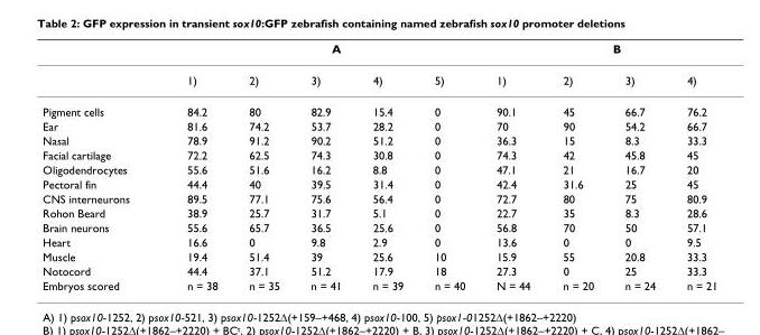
<table><thead><tr><td rowspan="2"></td><td colspan="5">A</td><td colspan="4">B</td></tr><tr><td>1)</td><td>2)</td><td>3)</td><td>4)</td><td>5)</td><td>1)</td><td>2)</td><td>3)</td><td>4)</td></tr></thead><tbody><tr><td>Pigment cells</td><td>84.2</td><td>80</td><td>82.9</td><td>15.4</td><td>0</td><td>90.1</td><td>45</td><td>66.7</td><td>76.2</td></tr><tr><td>Ear</td><td>81.6</td><td>74.2</td><td>53.7</td><td>28.2</td><td>0</td><td>70</td><td>90</td><td>54.2</td><td>66.7</td></tr><tr><td>Nasal</td><td>78.9</td><td>91.2</td><td>90.2</td><td>51.2</td><td>0</td><td>36.3</td><td>15</td><td>8.3</td><td>33.3</td></tr><tr><td>Facial cartilage</td><td>72.2</td><td>62.5</td><td>74.3</td><td>30.8</td><td>0</td><td>74.3</td><td>42</td><td>45.8</td><td>45</td></tr><tr><td>Oligodendrocytes</td><td>55.6</td><td>51.6</td><td>16.2</td><td>8.8</td><td>0</td><td>47.1</td><td>21</td><td>16.7</td><td>20</td></tr><tr><td>Pectoral fin</td><td>44.4</td><td>40</td><td>39.5</td><td>31.4</td><td>0</td><td>42.4</td><td>31.6</td><td>25</td><td>45</td></tr><tr><td>CNS interneurons</td><td>89.5</td><td>77.1</td><td>75.6</td><td>56.4</td><td>0</td><td>72.7</td><td>80</td><td>75</td><td>80.9</td></tr><tr><td>Rohon Beard</td><td>38.9</td><td>25.7</td><td>31.7</td><td>5.1</td><td>0</td><td>22.7</td><td>35</td><td>8.3</td><td>28.6</td></tr><tr><td>Brain neurons</td><td>55.6</td><td>65.7</td><td>36.5</td><td>25.6</td><td>0</td><td>56.8</td><td>70</td><td>50</td><td>57.1</td></tr><tr><td>Heart</td><td>16.6</td><td>0</td><td>9.8</td><td>2.9</td><td>0</td><td>13.6</td><td>0</td><td>0</td><td>9.5</td></tr><tr><td>Muscle</td><td>19.4</td><td>51.4</td><td>39</td><td>25.6</td><td>10</td><td>15.9</td><td>55</td><td>20.8</td><td>33.3</td></tr><tr><td>Notocord</td><td>44.4</td><td>37.1</td><td>51.2</td><td>17.9</td><td>18</td><td>27.3</td><td>0</td><td>25</td><td>33.3</td></tr><tr><td>Embryos scored</td><td>n = 38</td><td>n = 35</td><td>n = 41</td><td>n = 39</td><td>n = 40</td><td>N = 44</td><td>n = 20</td><td>n = 24</td><td>n = 21</td></tr></tbody></table>